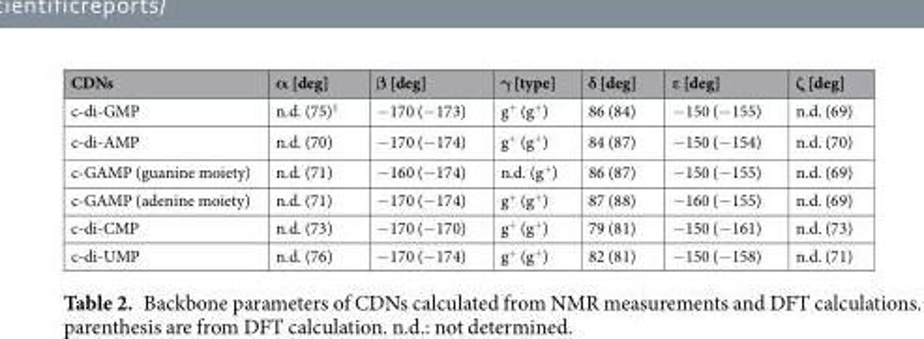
<table><thead><tr><td>CDNs</td><td>α [deg]</td><td>β [deg]</td><td>γ [type]</td><td>δ [deg]</td><td>ε [deg]</td><td>ζ [deg]</td></tr></thead><tbody><tr><td>c-di-GMP</td><td>n.d. (75)<sup>1</sup></td><td>−170 (−173)</td><td>g<sup>+</sup> (g<sup>+</sup>)</td><td>86 (84)</td><td>−150 (−155)</td><td>n.d. (69)</td></tr><tr><td>c-di-AMP</td><td>n.d. (70)</td><td>−170 (−174)</td><td>g<sup>+</sup> (g<sup>+</sup>)</td><td>84 (87)</td><td>−150 (−154)</td><td>n.d. (70)</td></tr><tr><td>c-GAMP (guanine moiety)</td><td>n.d. (71)</td><td>−160 (−174)</td><td>n.d. (g<sup>+</sup>)</td><td>86 (87)</td><td>−150 (−155)</td><td>n.d. (69)</td></tr><tr><td>c-GAMP (adenine moiety)</td><td>n.d. (71)</td><td>−170 (−174)</td><td>g<sup>+</sup> (g<sup>+</sup>)</td><td>87 (88)</td><td>−160 (−155)</td><td>n.d. (69)</td></tr><tr><td>c-di-CMP</td><td>n.d. (73)</td><td>−170 (−170)</td><td>g<sup>+</sup> (g<sup>+</sup>)</td><td>79 (81)</td><td>−150 (−161)</td><td>n.d. (73)</td></tr><tr><td>c-di-UMP</td><td>n.d. (76)</td><td>−170 (−174)</td><td>g<sup>+</sup> (g<sup>+</sup>)</td><td>82 (81)</td><td>−150 (−158)</td><td>n.d. (71)</td></tr></tbody></table>